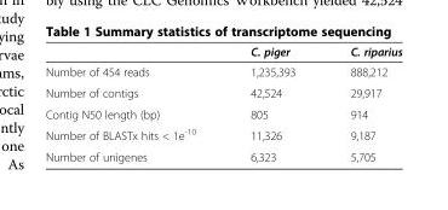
<table><thead><tr><td></td><td>C. piger</td><td>C. riparius</td></tr></thead><tbody><tr><td>Number of 454 reads</td><td>1,235,393</td><td>888,212</td></tr><tr><td>Number of contigs</td><td>42,524</td><td>29,917</td></tr><tr><td>Contig N50 length (bp)</td><td>805</td><td>914</td></tr><tr><td>Number of BLASTx hits &lt; 1e<sup>-10</sup></td><td>11,326</td><td>9,187</td></tr><tr><td>Number of unigenes</td><td>6,323</td><td>5,705</td></tr></tbody></table>